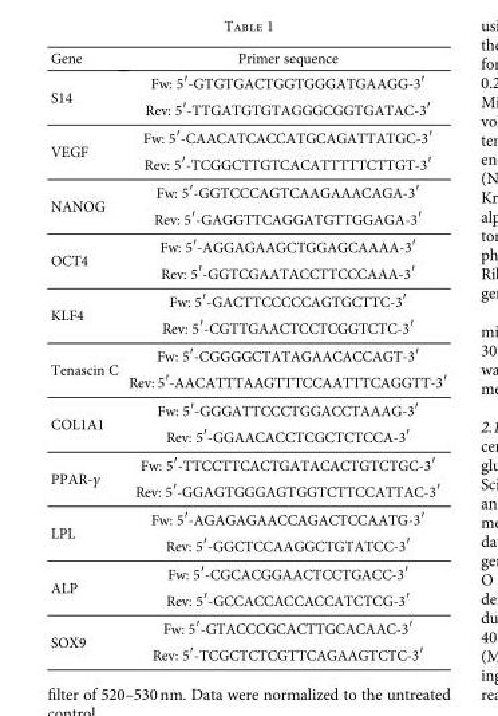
<table><thead><tr><td>Gene</td><td>Primer sequence</td></tr></thead><tbody><tr><td rowspan="2">S14</td><td>Fw: 5′-GTGTGACTGGTGGGATGAAGG-3′</td></tr><tr><td>Rev: 5′-TTGATGTGTAGGGCGGTGATAC-3′</td></tr><tr><td rowspan="2">VEGF</td><td>Fw: 5′-CAACATCACCATGCAGATTATGC-3′</td></tr><tr><td>Rev: 5′-TCGGCTTGTCACATTTTTCTTGT-3′</td></tr><tr><td rowspan="2">NANOG</td><td>Fw: 5′-GGTCCCAGTCAAGAAACAGA-3′</td></tr><tr><td>Rev: 5′-GAGGTTCAGGATGTTGGAGA-3′</td></tr><tr><td rowspan="2">OCT4</td><td>Fw: 5′-AGGAGAAGCTGGAGCAAAA-3′</td></tr><tr><td>Rev: 5′-GGTCGAATACCTTCCCAAA-3′</td></tr><tr><td rowspan="2">KLF4</td><td>Fw: 5′-GACTTCCCCCAGTGCTTC-3′</td></tr><tr><td>Rev: 5′-CGTTGAACTCCTCGGTCTC-3′</td></tr><tr><td rowspan="2">Tenascin C</td><td>Fw: 5′-CGGGGCTATAGAACACCAGT-3′</td></tr><tr><td>Rev: 5′-AACATTTAAGTTTCCAATTTCAGGTT-3′</td></tr><tr><td rowspan="2">COL1A1</td><td>Fw: 5′-GGGATTCCCTGGACCTAAAG-3′</td></tr><tr><td>Rev: 5′-GGAACACCTCGCTCTCCA-3′</td></tr><tr><td rowspan="2">PPAR-γ</td><td>Fw: 5′-TTCCTTCACTGATACACTGTCTGC-3′</td></tr><tr><td>Rev: 5′-GGAGTGGGAGTGGTCTTCCATTAC-3′</td></tr><tr><td rowspan="2">LPL</td><td>Fw: 5′-AGAGAGAACCAGACTCCAATG-3′</td></tr><tr><td>Rev: 5′-GGCTCCAAGGCTGTATCC-3′</td></tr><tr><td rowspan="2">ALP</td><td>Fw: 5′-CGCACGGAACTCCTGACC-3′</td></tr><tr><td>Rev: 5′-GCCACCACCACCATCTCG-3′</td></tr><tr><td rowspan="2">SOX9</td><td>Fw: 5′-GTACCCGCACTTGCACAAC-3′</td></tr><tr><td>Rev: 5′-TCGCTCTCGTTCAGAAGTCTC-3′</td></tr></tbody></table>